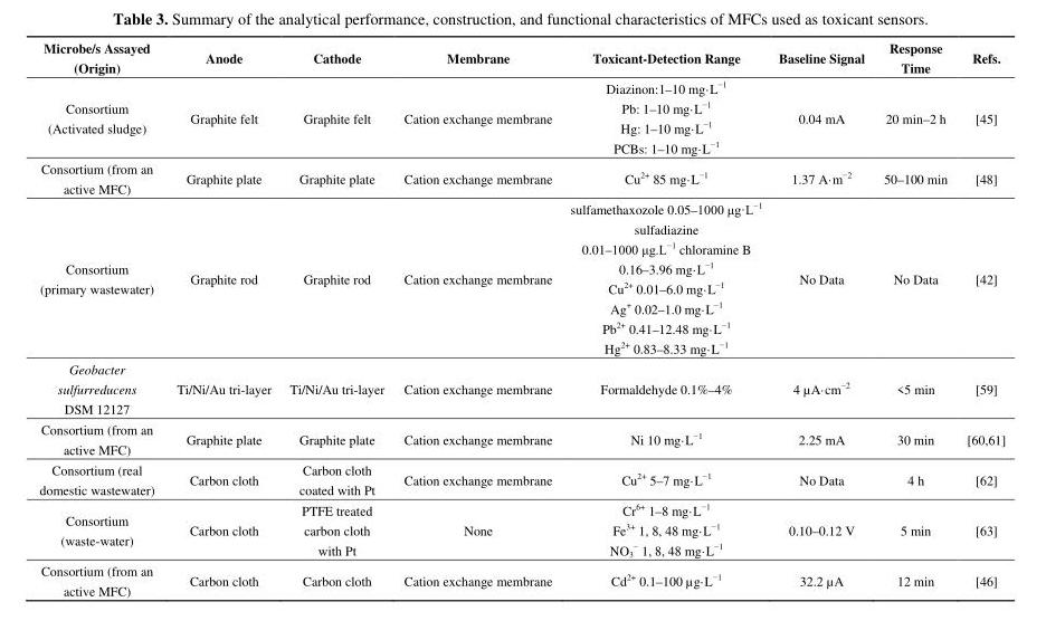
<table><thead><tr><td>Microbe/s Assayed (Origin)</td><td>Anode</td><td>Cathode</td><td>Membrane</td><td>Toxicant-Detection Range</td><td>Baseline Signal</td><td>Response Time</td><td>Refs.</td></tr></thead><tbody><tr><td>Consortium (Activated sludge)</td><td>Graphite felt</td><td>Graphite felt</td><td>Cation exchange membrane</td><td>Diazinon:1–10 mg·L<sup>−1</sup> Pb: 1–10 mg·L<sup>−1</sup> Hg: 1–10 mg·L<sup>−1</sup> PCBs: 1–10 mg·L<sup>−1</sup></td><td>0.04 mA</td><td>20 min–2 h</td><td>[45]</td></tr><tr><td>Consortium (from an active MFC)</td><td>Graphite plate</td><td>Graphite plate</td><td>Cation exchange membrane</td><td>Cu<sup>2+</sup> 85 mg·L<sup>−1</sup></td><td>1.37 A·m<sup>−2</sup></td><td>50–100 min</td><td>[48]</td></tr><tr><td>Consortium (primary wastewater)</td><td>Graphite rod</td><td>Graphite rod</td><td>Cation exchange membrane</td><td>sulfamethaxozole 0.05–1000 μg·L<sup>−1</sup> sulfadiazine 0.01–1000 μg.L<sup>−1</sup> chloramine B 0.16–3.96 mg·L<sup>−1</sup> Cu<sup>2+</sup> 0.01–6.0 mg·L<sup>−1</sup> Ag<sup>+</sup> 0.02–1.0 mg·L<sup>−1</sup> Pb<sup>2+</sup> 0.41–12.48 mg·L<sup>−1</sup> Hg<sup>2+</sup> 0.83–8.33 mg·L<sup>−1</sup></td><td>No Data</td><td>No Data</td><td>[42]</td></tr><tr><td>Geobacter sulfurreducens DSM 12127</td><td>Ti/Ni/Au tri-layer</td><td>Ti/Ni/Au tri-layer</td><td>Cation exchange membrane</td><td>Formaldehyde 0.1%–4%</td><td>4 µA·cm<sup>−2</sup></td><td>&lt;5 min</td><td>[59]</td></tr><tr><td>Consortium (from an active MFC)</td><td>Graphite plate</td><td>Graphite plate</td><td>Cation exchange membrane</td><td>Ni 10 mg·L<sup>−1</sup></td><td>2.25 mA</td><td>30 min</td><td>[60,61]</td></tr><tr><td>Consortium (real domestic wastewater)</td><td>Carbon cloth</td><td>Carbon cloth coated with Pt</td><td>Cation exchange membrane</td><td>Cu<sup>2+</sup> 5–7 mg·L<sup>−1</sup></td><td>No Data</td><td>4 h</td><td>[62]</td></tr><tr><td>Consortium (waste-water)</td><td>Carbon cloth</td><td>PTFE treated carbon cloth with Pt</td><td>None</td><td>Cr<sup>6+</sup> 1–8 mg·L<sup>−1</sup> Fe<sup>3+</sup> 1, 8, 48 mg·L<sup>−1</sup> NO<sub>3</sub> <sup>−</sup> 1, 8, 48 mg·L<sup>−1</sup></td><td>0.10–0.12 V</td><td>5 min</td><td>[63]</td></tr><tr><td>Consortium (from an active MFC)</td><td>Carbon cloth</td><td>Carbon cloth</td><td>Cation exchange membrane</td><td>Cd<sup>2+</sup> 0.1–100 µg·L<sup>−1</sup></td><td>32.2 µA</td><td>12 min</td><td>[46]</td></tr></tbody></table>